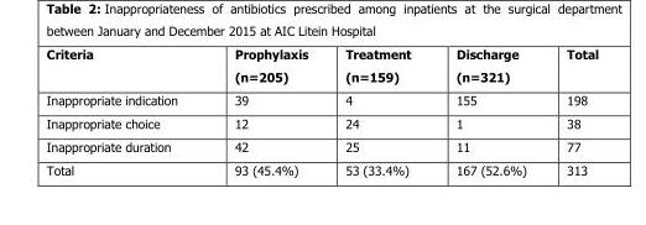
<table><thead><tr><td>Criteria</td><td>Prophylaxis (n=205)</td><td>Treatment (n=159)</td><td>Discharge (n=321)</td><td>Total</td></tr></thead><tbody><tr><td>Inappropriate indication</td><td>39</td><td>4</td><td>155</td><td>198</td></tr><tr><td>Inappropriate choice</td><td>12</td><td>24</td><td>1</td><td>38</td></tr><tr><td>Inappropriate duration</td><td>42</td><td>25</td><td>11</td><td>77</td></tr><tr><td>Total</td><td>93 (45.4%)</td><td>53 (33.4%)</td><td>167 (52.6%)</td><td>313</td></tr></tbody></table>